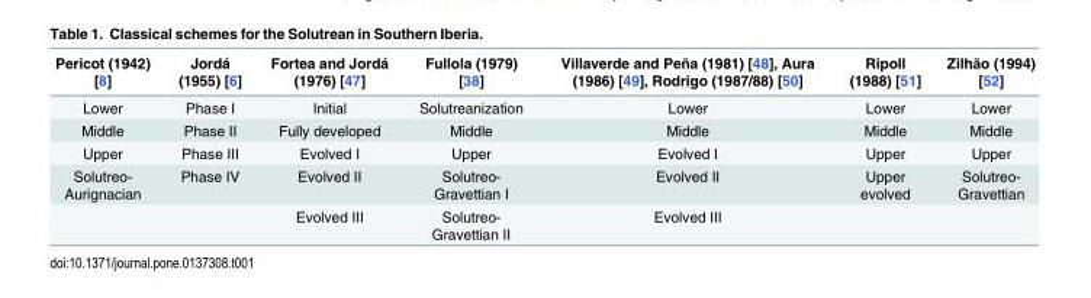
<table><thead><tr><td>Pericot (1942) [8]</td><td>Jordá (1955) [6]</td><td>Fortea and Jordá (1976) [47]</td><td>Fullola (1979) [38]</td><td>Villaverde and Peña (1981) [48], Aura (1986) [49], Rodrigo (1987/88) [50]</td><td>Ripoll (1988) [51]</td><td>Zilhão (1994) [52]</td></tr></thead><tbody><tr><td>Lower</td><td>Phase I</td><td>Initial</td><td>Solutreanization</td><td>Lower</td><td>Lower</td><td>Lower</td></tr><tr><td>Middle</td><td>Phase II</td><td>Fully developed</td><td>Middle</td><td>Middle</td><td>Middle</td><td>Middle</td></tr><tr><td>Upper</td><td>Phase III</td><td>Evolved I</td><td>Upper</td><td>Evolved I</td><td>Upper</td><td>Upper</td></tr><tr><td rowspan="2">Solutreo- Aurignacian</td><td>Phase IV</td><td>Evolved II</td><td>Solutreo- Gravettian I</td><td>Evolved II</td><td>Upper evolved</td><td>Solutreo- Gravettian</td></tr><tr><td></td><td>Evolved III</td><td>Solutreo- Gravettian II</td><td>Evolved III</td><td></td><td></td></tr></tbody></table>